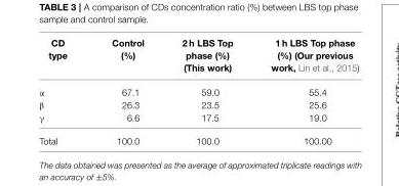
<table><thead><tr><td>CD type</td><td>Control (%)</td><td>2 h LBS Top phase (%) (This work)</td><td>1 h LBS Top phase (%) (Our previous work, Lin et al., 2015)</td></tr></thead><tbody><tr><td>α</td><td>67.1</td><td>59.0</td><td>55.4</td></tr><tr><td>β</td><td>26.3</td><td>23.5</td><td>25.6</td></tr><tr><td>γ</td><td>6.6</td><td>17.5</td><td>19.0</td></tr><tr><td>Total</td><td>100.0</td><td>100.0</td><td>100.00</td></tr></tbody></table>